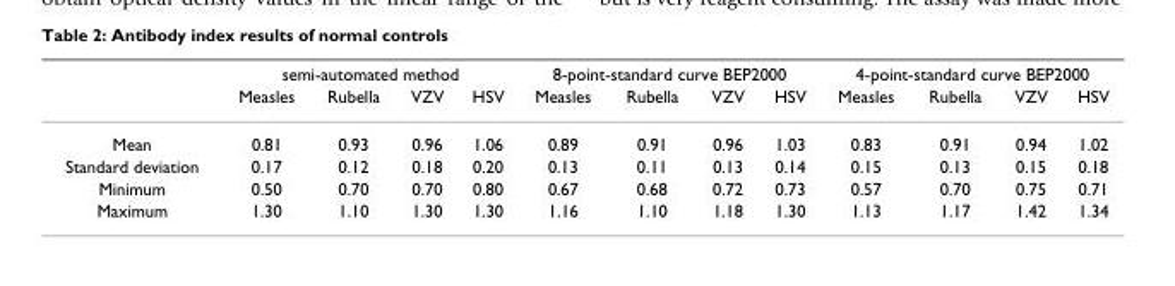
<table><thead><tr><td rowspan="2"></td><td colspan="4">semi-automated method</td><td colspan="4">8-point-standard curve BEP2000</td><td colspan="4">4-point-standard curve BEP2000</td></tr><tr><td>Measles</td><td>Rubella</td><td>VZV</td><td>HSV</td><td>Measles</td><td>Rubella</td><td>VZV</td><td>HSV</td><td>Measles</td><td>Rubella</td><td>VZV</td><td>HSV</td></tr></thead><tbody><tr><td>Mean</td><td>0.81</td><td>0.93</td><td>0.96</td><td>1.06</td><td>0.89</td><td>0.91</td><td>0.96</td><td>1.03</td><td>0.83</td><td>0.91</td><td>0.94</td><td>1.02</td></tr><tr><td>Standard deviation</td><td>0.17</td><td>0.12</td><td>0.18</td><td>0.20</td><td>0.13</td><td>0.11</td><td>0.13</td><td>0.14</td><td>0.15</td><td>0.13</td><td>0.15</td><td>0.18</td></tr><tr><td>Minimum</td><td>0.50</td><td>0.70</td><td>0.70</td><td>0.80</td><td>0.67</td><td>0.68</td><td>0.72</td><td>0.73</td><td>0.57</td><td>0.70</td><td>0.75</td><td>0.71</td></tr><tr><td>Maximum</td><td>1.30</td><td>1.10</td><td>1.30</td><td>1.30</td><td>1.16</td><td>1.10</td><td>1.18</td><td>1.30</td><td>1.13</td><td>1.17</td><td>1.42</td><td>1.34</td></tr></tbody></table>